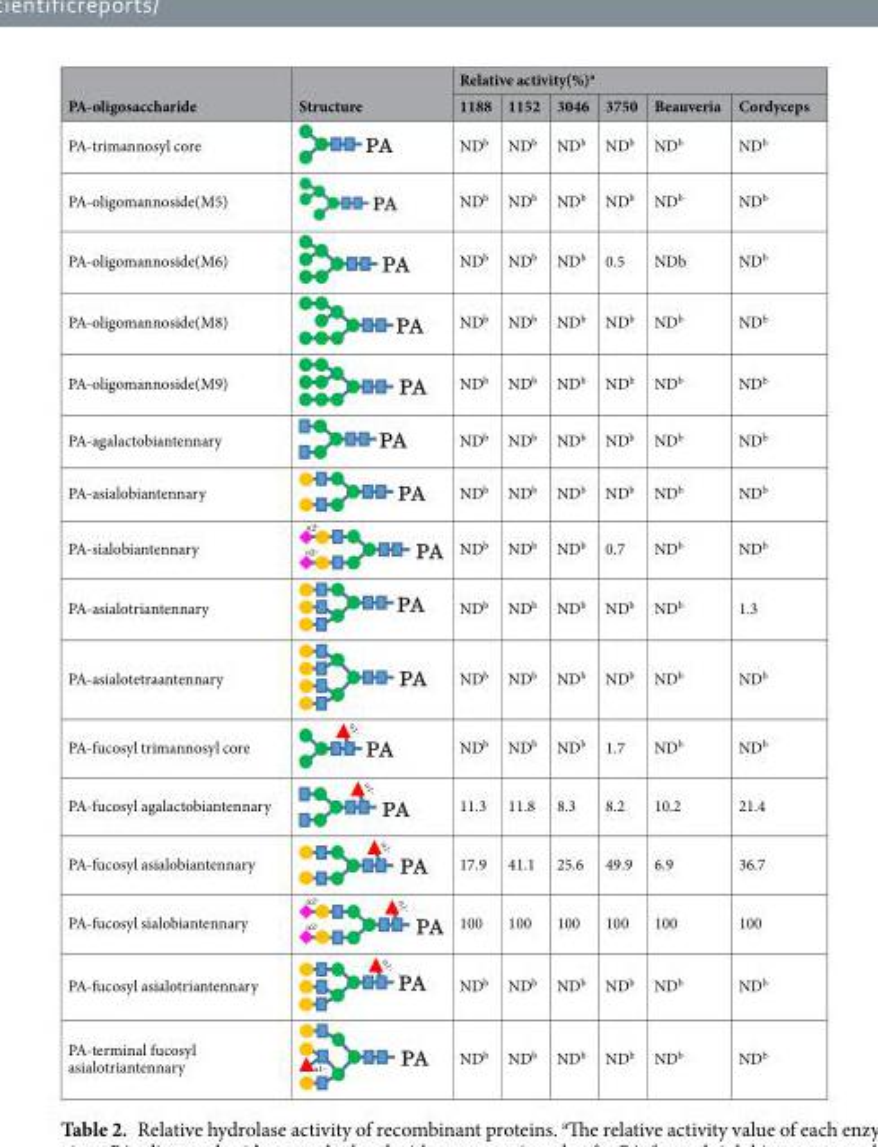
<table><thead><tr><td rowspan="2">PA-oligosaccharide</td><td rowspan="2">Structure</td><td colspan="6">Relative activity(%)a</td></tr><tr><td>1188</td><td>1152</td><td>3046</td><td>3750</td><td>Beauveria</td><td>Cordyceps</td></tr></thead><tbody><tr><td>PA-trimannosyl core</td><td></td><td>NDb</td><td>NDb</td><td>NDb</td><td>NDb</td><td>NDb</td><td>NDb</td></tr><tr><td>PA-oligomannoside(M5)</td><td></td><td>NDb</td><td>NDb</td><td>NDb</td><td>NDb</td><td>NDb</td><td>NDb</td></tr><tr><td>PA-oligomannoside(M6)</td><td></td><td>NDb</td><td>NDb</td><td>NDb</td><td>0.5</td><td>NDb</td><td>NDb</td></tr><tr><td>PA-oligomannoside(M8)</td><td></td><td>NDb</td><td>NDb</td><td>NDb</td><td>NDb</td><td>NDb</td><td>NDb</td></tr><tr><td>PA-oligomannoside(M9)</td><td></td><td>NDb</td><td>NDb</td><td>NDb</td><td>NDb</td><td>NDb</td><td>NDb</td></tr><tr><td>PA-agalactobiantennary</td><td></td><td>NDb</td><td>NDb</td><td>NDb</td><td>NDb</td><td>NDb</td><td>NDb</td></tr><tr><td>PA-asialobiantennary</td><td></td><td>NDb</td><td>NDb</td><td>NDb</td><td>NDb</td><td>NDb</td><td>NDb</td></tr><tr><td>PA-sialobiantennary</td><td></td><td>NDb</td><td>NDb</td><td>NDb</td><td>0.7</td><td>NDb</td><td>NDb</td></tr><tr><td>PA-asialotriantennary</td><td></td><td>NDb</td><td>NDb</td><td>NDb</td><td>NDb</td><td>NDb</td><td>1.3</td></tr><tr><td>PA-asialotetraantennary</td><td></td><td>NDb</td><td>NDb</td><td>NDb</td><td>NDb</td><td>NDb</td><td>NDb</td></tr><tr><td>PA-fucosyl trimannosyl core</td><td></td><td>NDb</td><td>NDb</td><td>NDb</td><td>1.7</td><td>NDb</td><td>NDb</td></tr><tr><td>PA-fucosyl agalactobiantennary</td><td></td><td>11.3</td><td>11.8</td><td>8.3</td><td>8.2</td><td>10.2</td><td>21.4</td></tr><tr><td>PA-fucosyl asialobiantennary</td><td></td><td>17.9</td><td>41.1</td><td>25.6</td><td>49.9</td><td>6.9</td><td>36.7</td></tr><tr><td>PA-fucosyl sialobiantennary</td><td></td><td>100</td><td>100</td><td>100</td><td>100</td><td>100</td><td>100</td></tr><tr><td>PA-fucosyl asialotriantennary</td><td></td><td>NDb</td><td>NDb</td><td>NDb</td><td>NDb</td><td>NDb</td><td>NDb</td></tr><tr><td>PA-terminal fucosyl asialotriantennary</td><td></td><td>NDb</td><td>NDb</td><td>NDb</td><td>NDb</td><td>NDb</td><td>NDb</td></tr></tbody></table>